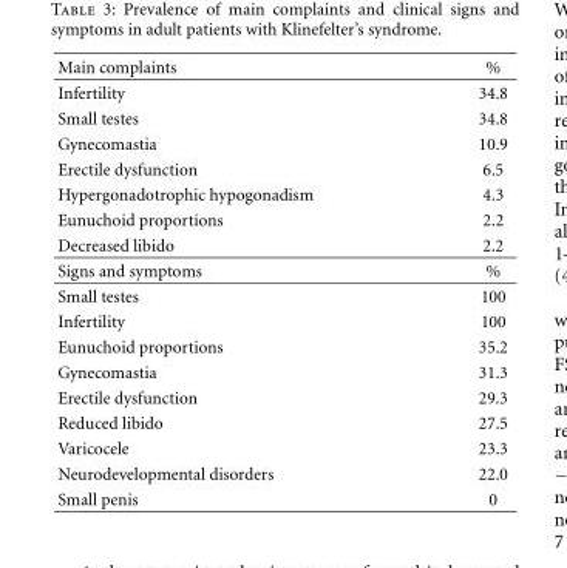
<table><thead><tr><td>Main complaints</td><td>%</td></tr></thead><tbody><tr><td>Infertility</td><td>34.8</td></tr><tr><td>Small testes</td><td>34.8</td></tr><tr><td>Gynecomastia</td><td>10.9</td></tr><tr><td>Erectile dysfunction</td><td>6.5</td></tr><tr><td>Hypergonadotrophic hypogonadism</td><td>4.3</td></tr><tr><td>Eunuchoid proportions</td><td>2.2</td></tr><tr><td>Decreased libido</td><td>2.2</td></tr><tr><td>Signs and symptoms</td><td>%</td></tr><tr><td>Small testes</td><td>100</td></tr><tr><td>Infertility</td><td>100</td></tr><tr><td>Eunuchoid proportions</td><td>35.2</td></tr><tr><td>Gynecomastia</td><td>31.3</td></tr><tr><td>Erectile dysfunction</td><td>29.3</td></tr><tr><td>Reduced libido</td><td>27.5</td></tr><tr><td>Varicocele</td><td>23.3</td></tr><tr><td>Neurodevelopmental disorders</td><td>22.0</td></tr><tr><td>Small penis</td><td>0</td></tr></tbody></table>